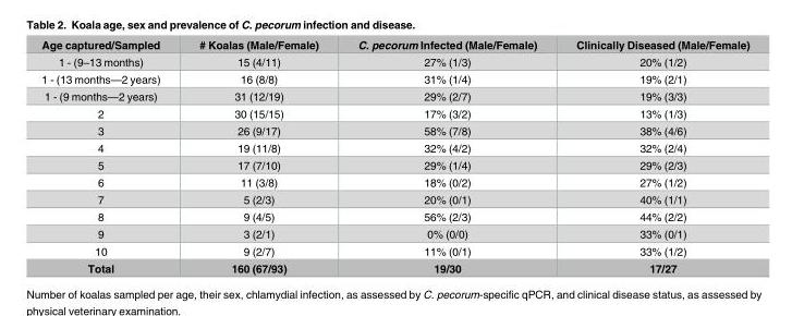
<table><thead><tr><td>Age captured/Sampled</td><td># Koalas (Male/Female)</td><td>C. pecorum Infected (Male/Female)</td><td>Clinically Diseased (Male/Female)</td></tr></thead><tbody><tr><td>1 - (9–13 months)</td><td>15 (4/11)</td><td>27% (1/3)</td><td>20% (1/2)</td></tr><tr><td>1 - (13 months—2 years)</td><td>16 (8/8)</td><td>31% (1/4)</td><td>19% (2/1)</td></tr><tr><td>1 - (9 months—2 years)</td><td>31 (12/19)</td><td>29% (2/7)</td><td>19% (3/3)</td></tr><tr><td>2</td><td>30 (15/15)</td><td>17% (3/2)</td><td>13% (1/3)</td></tr><tr><td>3</td><td>26 (9/17)</td><td>58% (7/8)</td><td>38% (4/6)</td></tr><tr><td>4</td><td>19 (11/8)</td><td>32% (4/2)</td><td>32% (2/4)</td></tr><tr><td>5</td><td>17 (7/10)</td><td>29% (1/4)</td><td>29% (2/3)</td></tr><tr><td>6</td><td>11 (3/8)</td><td>18% (0/2)</td><td>27% (1/2)</td></tr><tr><td>7</td><td>5 (2/3)</td><td>20% (0/1)</td><td>40% (1/1)</td></tr><tr><td>8</td><td>9 (4/5)</td><td>56% (2/3)</td><td>44% (2/2)</td></tr><tr><td>9</td><td>3 (2/1)</td><td>0% (0/0)</td><td>33% (0/1)</td></tr><tr><td>10</td><td>9 (2/7)</td><td>11% (0/1)</td><td>33% (1/2)</td></tr><tr><td>Total</td><td>160 (67/93)</td><td>19/30</td><td>17/27</td></tr></tbody></table>